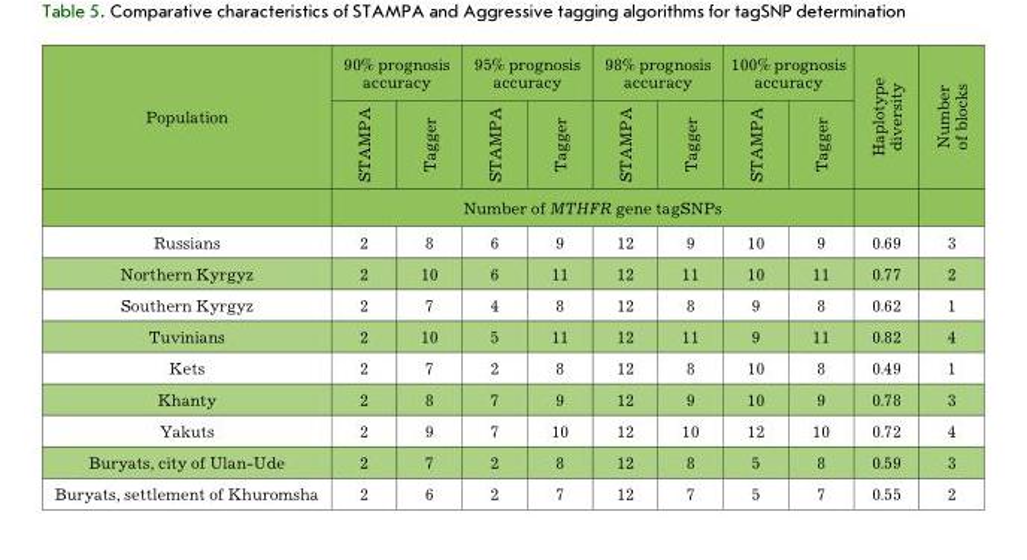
<table><thead><tr><td rowspan="3">Population</td><td colspan="2">90% prognosis accuracy</td><td colspan="2">95% prognosis accuracy</td><td colspan="2">98% prognosis accuracy</td><td colspan="2">100% prognosis accuracy</td><td rowspan="3">Haplotype diversity</td><td rowspan="3">number of blocks</td></tr><tr><td>StAMPA</td><td>tagger</td><td>StAMPA</td><td>tagger</td><td>StAMPA</td><td>tagger</td><td>StAMPA</td><td>tagger</td></tr><tr><td colspan="8">number of MTHFR gene tagSnPs</td></tr></thead><tbody><tr><td>russians</td><td>2</td><td>8</td><td>6</td><td>9</td><td>12</td><td>9</td><td>10</td><td>9</td><td>0.69</td><td>3</td></tr><tr><td>northern Kyrgyz</td><td>2</td><td>10</td><td>6</td><td>11</td><td>12</td><td>11</td><td>10</td><td>11</td><td>0.77</td><td>2</td></tr><tr><td>Southern Kyrgyz</td><td>2</td><td>7</td><td>4</td><td>8</td><td>12</td><td>8</td><td>9</td><td>8</td><td>0.62</td><td>1</td></tr><tr><td>tuvinians</td><td>2</td><td>10</td><td>5</td><td>11</td><td>12</td><td>11</td><td>9</td><td>11</td><td>0.82</td><td>4</td></tr><tr><td>Kets</td><td>2</td><td>7</td><td>2</td><td>8</td><td>12</td><td>8</td><td>10</td><td>8</td><td>0.49</td><td>1</td></tr><tr><td>Khanty</td><td>2</td><td>8</td><td>7</td><td>9</td><td>12</td><td>9</td><td>10</td><td>9</td><td>0.78</td><td>3</td></tr><tr><td>Yakuts</td><td>2</td><td>9</td><td>7</td><td>10</td><td>12</td><td>10</td><td>12</td><td>10</td><td>0.72</td><td>4</td></tr><tr><td>Buryats, city of ulan-ude</td><td>2</td><td>7</td><td>2</td><td>8</td><td>12</td><td>8</td><td>5</td><td>8</td><td>0.59</td><td>3</td></tr><tr><td>Buryats, settlement of Khuromsha</td><td>2</td><td>6</td><td>2</td><td>7</td><td>12</td><td>7</td><td>5</td><td>7</td><td>0.55</td><td>2</td></tr></tbody></table>